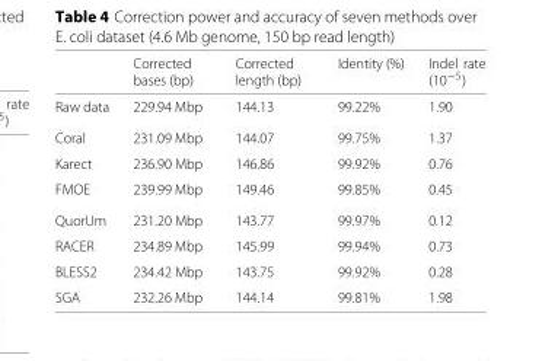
<table><thead><tr><td></td><td>Corrected bases (bp)</td><td>Corrected length (bp)</td><td>Identity (%)</td><td>Indel rate (10<sup>−5</sup>)</td></tr></thead><tbody><tr><td>Raw data</td><td>229.94 Mbp</td><td>144.13</td><td>99.22%</td><td>1.90</td></tr><tr><td>Coral</td><td>231.09 Mbp</td><td>144.07</td><td>99.75%</td><td>1.37</td></tr><tr><td>Karect</td><td>236.90 Mbp</td><td>146.86</td><td>99.92%</td><td>0.76</td></tr><tr><td>FMOE</td><td>239.99 Mbp</td><td>149.46</td><td>99.85%</td><td>0.45</td></tr><tr><td>QuorUm</td><td>231.20 Mbp</td><td>143.77</td><td>99.97%</td><td>0.12</td></tr><tr><td>RACER</td><td>234.89 Mbp</td><td>145.99</td><td>99.94%</td><td>0.73</td></tr><tr><td>BLESS2</td><td>234.42 Mbp</td><td>143.75</td><td>99.92%</td><td>0.28</td></tr><tr><td>SGA</td><td>232.26 Mbp</td><td>144.14</td><td>99.81%</td><td>1.98</td></tr></tbody></table>